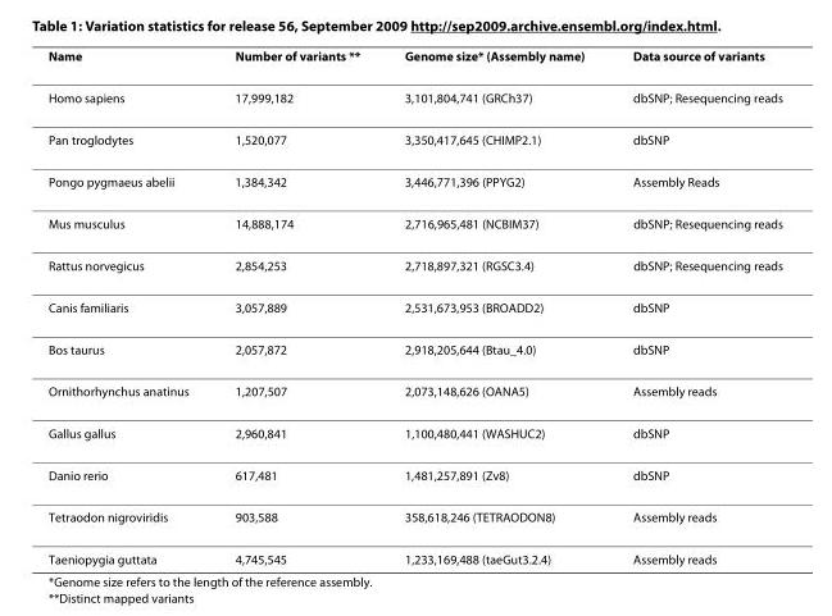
<table><thead><tr><td>Name</td><td>Number of variants **</td><td>Genome size* (Assembly name)</td><td>Data source of variants</td></tr></thead><tbody><tr><td>Homo sapiens</td><td>17,999,182</td><td>3,101,804,741 (GRCh37)</td><td>dbSNP; Resequencing reads</td></tr><tr><td>Pan troglodytes</td><td>1,520,077</td><td>3,350,417,645 (CHIMP2.1)</td><td>dbSNP</td></tr><tr><td>Pongo pygmaeus abelii</td><td>1,384,342</td><td>3,446,771,396 (PPYG2)</td><td>Assembly Reads</td></tr><tr><td>Mus musculus</td><td>14,888,174</td><td>2,716,965,481 (NCBIM37)</td><td>dbSNP; Resequencing reads</td></tr><tr><td>Rattus norvegicus</td><td>2,854,253</td><td>2,718,897,321 (RGSC3.4)</td><td>dbSNP; Resequencing reads</td></tr><tr><td>Canis familiaris</td><td>3,057,889</td><td>2,531,673,953 (BROADD2)</td><td>dbSNP</td></tr><tr><td>Bos taurus</td><td>2,057,872</td><td>2,918,205,644 (Btau_4.0)</td><td>dbSNP</td></tr><tr><td>Ornithorhynchus anatinus</td><td>1,207,507</td><td>2,073,148,626 (OANA5)</td><td>Assembly reads</td></tr><tr><td>Gallus gallus</td><td>2,960,841</td><td>1,100,480,441 (WASHUC2)</td><td>dbSNP</td></tr><tr><td>Danio rerio</td><td>617,481</td><td>1,481,257,891 (Zv8)</td><td>dbSNP</td></tr><tr><td>Tetraodon nigroviridis</td><td>903,588</td><td>358,618,246 (TETRAODON8)</td><td>Assembly reads</td></tr><tr><td>Taeniopygia guttata</td><td>4,745,545</td><td>1,233,169,488 (taeGut3.2.4)</td><td>Assembly reads</td></tr></tbody></table>